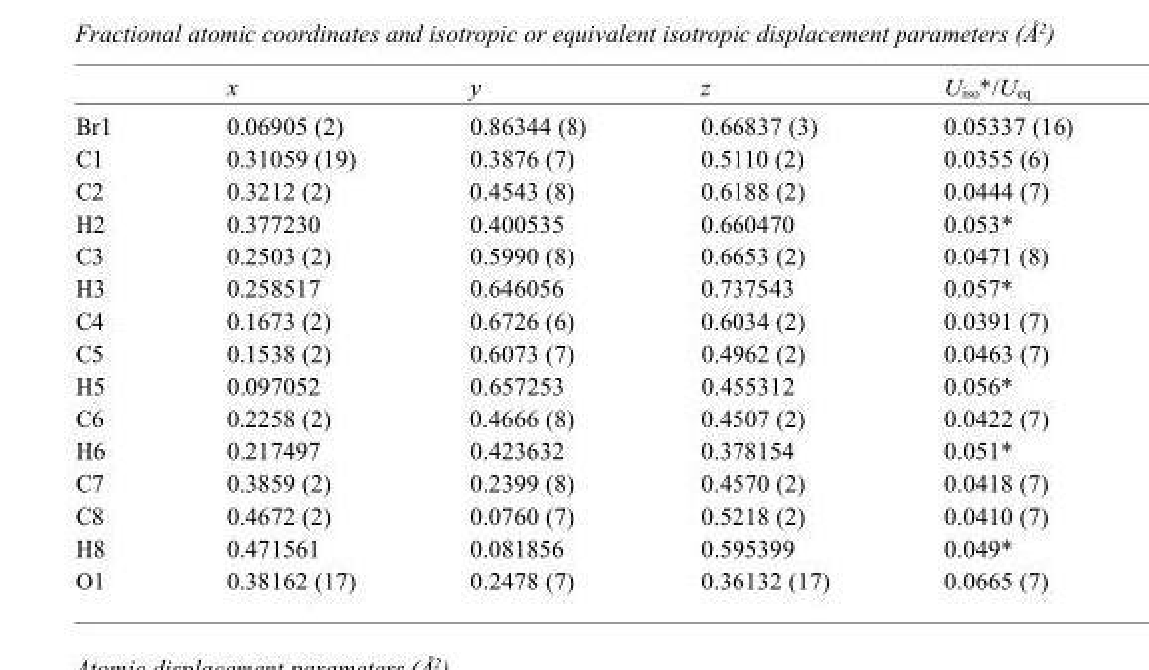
<table><thead><tr><td></td><td>x</td><td>y</td><td>z</td><td>U<sub>iso</sub>*/U<sub>eq</sub></td></tr></thead><tbody><tr><td>Br1</td><td>0.06905 (2)</td><td>0.86344 (8)</td><td>0.66837 (3)</td><td>0.05337 (16)</td></tr><tr><td>C1</td><td>0.31059 (19)</td><td>0.3876 (7)</td><td>0.5110 (2)</td><td>0.0355 (6)</td></tr><tr><td>C2</td><td>0.3212 (2)</td><td>0.4543 (8)</td><td>0.6188 (2)</td><td>0.0444 (7)</td></tr><tr><td>H2</td><td>0.377230</td><td>0.400535</td><td>0.660470</td><td>0.053*</td></tr><tr><td>C3</td><td>0.2503 (2)</td><td>0.5990 (8)</td><td>0.6653 (2)</td><td>0.0471 (8)</td></tr><tr><td>H3</td><td>0.258517</td><td>0.646056</td><td>0.737543</td><td>0.057*</td></tr><tr><td>C4</td><td>0.1673 (2)</td><td>0.6726 (6)</td><td>0.6034 (2)</td><td>0.0391 (7)</td></tr><tr><td>C5</td><td>0.1538 (2)</td><td>0.6073 (7)</td><td>0.4962 (2)</td><td>0.0463 (7)</td></tr><tr><td>H5</td><td>0.097052</td><td>0.657253</td><td>0.455312</td><td>0.056*</td></tr><tr><td>C6</td><td>0.2258 (2)</td><td>0.4666 (8)</td><td>0.4507 (2)</td><td>0.0422 (7)</td></tr><tr><td>H6</td><td>0.217497</td><td>0.423632</td><td>0.378154</td><td>0.051*</td></tr><tr><td>C7</td><td>0.3859 (2)</td><td>0.2399 (8)</td><td>0.4570 (2)</td><td>0.0418 (7)</td></tr><tr><td>C8</td><td>0.4672 (2)</td><td>0.0760 (7)</td><td>0.5218 (2)</td><td>0.0410 (7)</td></tr><tr><td>H8</td><td>0.471561</td><td>0.081856</td><td>0.595399</td><td>0.049*</td></tr><tr><td>O1</td><td>0.38162 (17)</td><td>0.2478 (7)</td><td>0.36132 (17)</td><td>0.0665 (7)</td></tr></tbody></table>